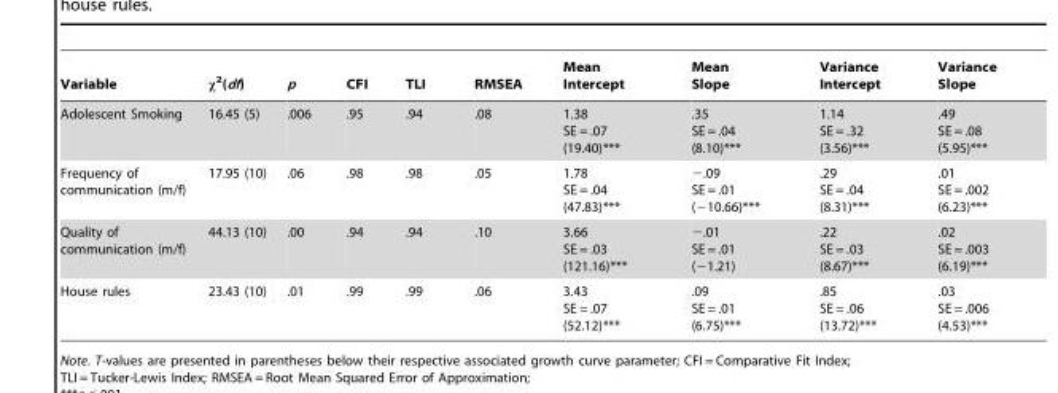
<table><thead><tr><td>Variable</td><td>χ<sup>2</sup>(df)</td><td>p</td><td>CFI</td><td>TLI</td><td>RMSEA</td><td>Mean Intercept</td><td>Mean Slope</td><td>Variance Intercept</td><td>Variance Slope</td></tr></thead><tbody><tr><td>Adolescent Smoking</td><td>16.45 (5)</td><td>.006</td><td>.95</td><td>.94</td><td>.08</td><td>1.38 SE = .07 (19.40)***</td><td>.35 SE = .04 (8.10)***</td><td>1.14 SE = .32 (3.56)***</td><td>.49 SE = .08 (5.95)***</td></tr><tr><td>Frequency of communication (m/f)</td><td>17.95 (10)</td><td>.06</td><td>.98</td><td>.98</td><td>.05</td><td>1.78 SE = .04 (47.83)***</td><td>−.09 SE = .01 (−10.66)***</td><td>.29 SE = .04 (8.31)***</td><td>.01 SE = .002 (6.23)***</td></tr><tr><td>Quality of communication (m/f)</td><td>44.13 (10)</td><td>.00</td><td>.94</td><td>.94</td><td>.10</td><td>3.66 SE = .03 (121.16)***</td><td>−.01 SE = .01 (−1.21)</td><td>.22 SE = .03 (8.67)***</td><td>.02 SE = .003 (6.19)***</td></tr><tr><td>House rules</td><td>23.43 (10)</td><td>.01</td><td>.99</td><td>.99</td><td>.06</td><td>3.43 SE = .07 (52.12)***</td><td>.09 SE = .01 (6.75)***</td><td>.85 SE = .06 (13.72)***</td><td>.03 SE = .006 (4.53)***</td></tr></tbody></table>